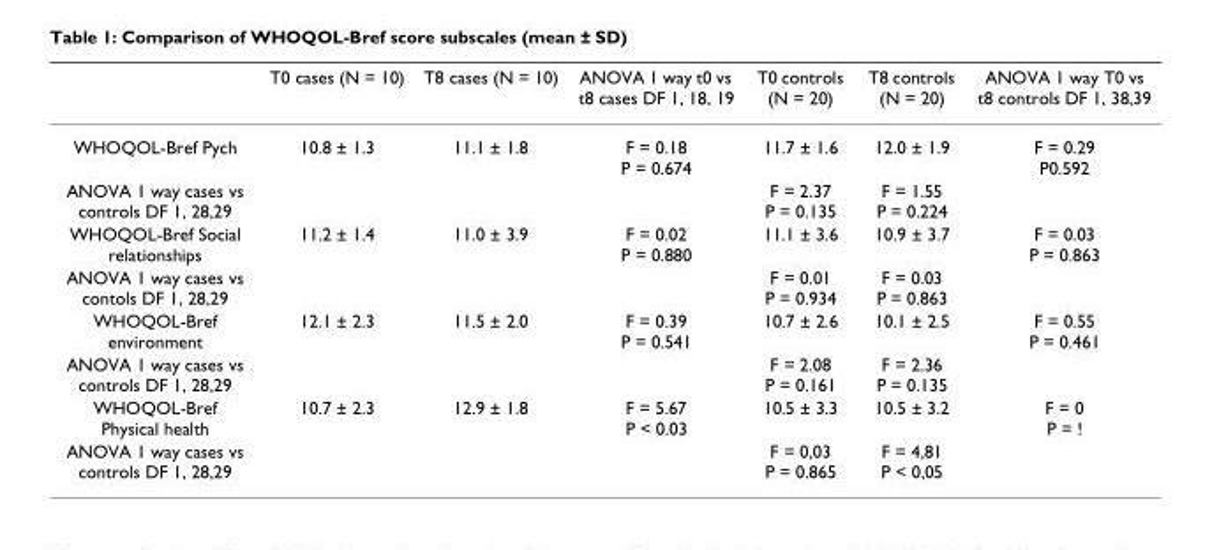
<table><thead><tr><td></td><td>T0 cases (N = 10)</td><td>T8 cases (N = 10)</td><td>ANOVA 1 way t0 vs t8 cases DF 1, 18, 19</td><td>T0 controls (N = 20)</td><td>T8 controls (N = 20)</td><td>ANOVA 1 way T0 vs t8 controls DF 1, 38,39</td></tr></thead><tbody><tr><td>WHOQOL-Bref Pych</td><td>10.8 ± 1.3</td><td>11.1 ± 1.8</td><td>F = 0.18 P = 0.674</td><td>11.7 ± 1.6</td><td>12.0 ± 1.9</td><td>F = 0.29 P0.592</td></tr><tr><td>ANOVA 1 way cases vs controls DF 1, 28,29</td><td></td><td></td><td></td><td>F = 2.37 P = 0.135</td><td>F = 1.55 P = 0.224</td><td></td></tr><tr><td>WHOQOL-Bref Social relationships</td><td>11.2 ± 1.4</td><td>11.0 ± 3.9</td><td>F = 0.02 P = 0.880</td><td>11.1 ± 3.6</td><td>10.9 ± 3.7</td><td>F = 0.03 P = 0.863</td></tr><tr><td>ANOVA 1 way cases vs contols DF 1, 28,29</td><td></td><td></td><td></td><td>F = 0.01 P = 0.934</td><td>F = 0.03 P = 0.863</td><td></td></tr><tr><td>WHOQOL-Bref environment</td><td>12.1 ± 2.3</td><td>11.5 ± 2.0</td><td>F = 0.39 P = 0.541</td><td>10.7 ± 2.6</td><td>10.1 ± 2.5</td><td>F = 0.55 P = 0.461</td></tr><tr><td>ANOVA 1 way cases vs controls DF 1, 28,29</td><td></td><td></td><td></td><td>F = 2.08 P = 0.161</td><td>F = 2.36 P = 0.135</td><td></td></tr><tr><td>WHOQOL-Bref Physical health</td><td>10.7 ± 2.3</td><td>12.9 ± 1.8</td><td>F = 5.67 P &lt; 0.03</td><td>10.5 ± 3.3</td><td>10.5 ± 3.2</td><td>F = 0 P = !</td></tr><tr><td>ANOVA 1 way cases vs controls DF 1, 28,29</td><td></td><td></td><td></td><td>F = 0,03 P = 0.865</td><td>F = 4,81 P &lt; 0,05</td><td></td></tr></tbody></table>